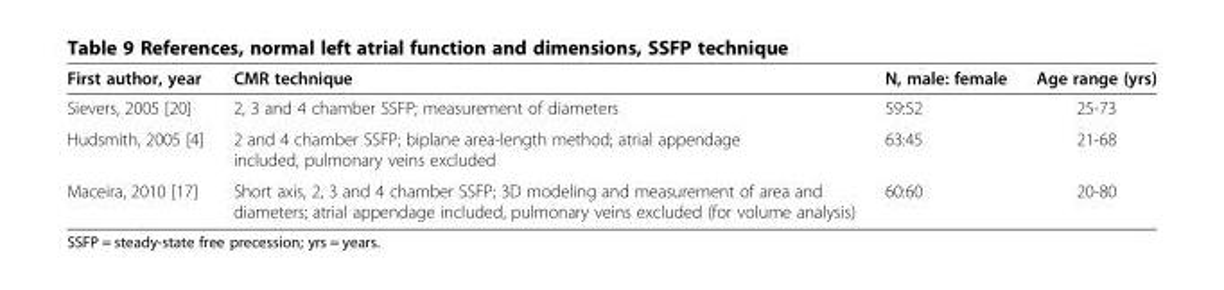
<table><thead><tr><td>First author, year</td><td>CMR technique</td><td>N, male: female</td><td>Age range (yrs)</td></tr></thead><tbody><tr><td>Sievers, 2005 [20]</td><td>2, 3 and 4 chamber SSFP; measurement of diameters</td><td>59:52</td><td>25-73</td></tr><tr><td>Hudsmith, 2005 [4]</td><td>2 and 4 chamber SSFP; biplane area-length method; atrial appendage included, pulmonary veins excluded</td><td>63:45</td><td>21-68</td></tr><tr><td>Maceira, 2010 [17]</td><td>Short axis, 2, 3 and 4 chamber SSFP; 3D modeling and measurement of area and diameters; atrial appendage included, pulmonary veins excluded (for volume analysis)</td><td>60:60</td><td>20-80</td></tr></tbody></table>